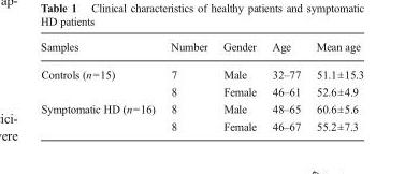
<table><thead><tr><td>Samples</td><td>Number</td><td>Gender</td><td>Age</td><td>Mean age</td></tr></thead><tbody><tr><td rowspan="2">Controls (n=15)</td><td>7</td><td>Male</td><td>32–77</td><td>51.1±15.3</td></tr><tr><td>8</td><td>Female</td><td>46–61</td><td>52.6±4.9</td></tr><tr><td rowspan="2">Symptomatic HD (n=16)</td><td>8</td><td>Male</td><td>48–65</td><td>60.6±5.6</td></tr><tr><td>8</td><td>Female</td><td>46–67</td><td>55.2±7.3</td></tr></tbody></table>